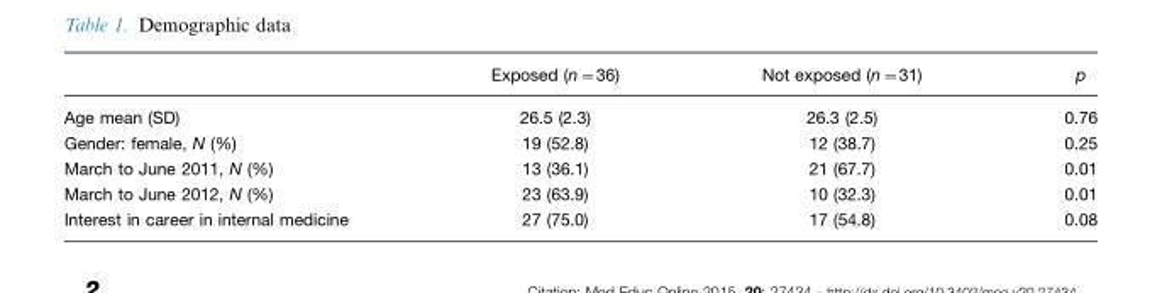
<table><thead><tr><td></td><td>Exposed (n=36)</td><td>Not exposed (n=31)</td><td>p</td></tr></thead><tbody><tr><td>Age mean (SD)</td><td>26.5 (2.3)</td><td>26.3 (2.5)</td><td>0.76</td></tr><tr><td>Gender: female, N (%)</td><td>19 (52.8)</td><td>12 (38.7)</td><td>0.25</td></tr><tr><td>March to June 2011, N (%)</td><td>13 (36.1)</td><td>21 (67.7)</td><td>0.01</td></tr><tr><td>March to June 2012, N (%)</td><td>23 (63.9)</td><td>10 (32.3)</td><td>0.01</td></tr><tr><td>Interest in career in internal medicine</td><td>27 (75.0)</td><td>17 (54.8)</td><td>0.08</td></tr></tbody></table>